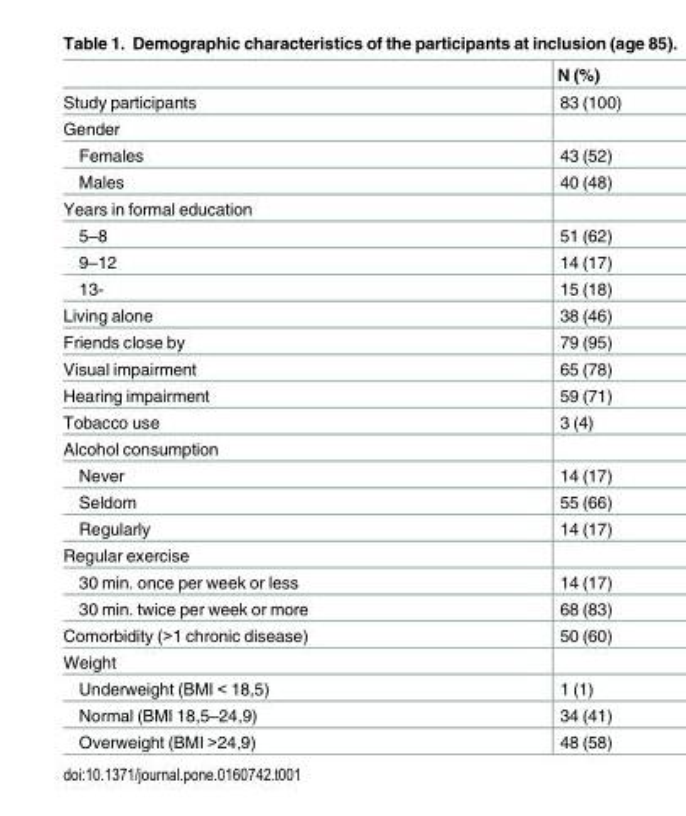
<table><thead><tr><td></td><td>N (%)</td></tr></thead><tbody><tr><td>Study participants</td><td>83 (100)</td></tr><tr><td colspan="2">Gender</td></tr><tr><td>Females</td><td>43 (52)</td></tr><tr><td>Males</td><td>40 (48)</td></tr><tr><td colspan="2">Years in formal education</td></tr><tr><td>5–8</td><td>51 (62)</td></tr><tr><td>9–12</td><td>14 (17)</td></tr><tr><td>13-</td><td>15 (18)</td></tr><tr><td>Living alone</td><td>38 (46)</td></tr><tr><td>Friends close by</td><td>79 (95)</td></tr><tr><td>Visual impairment</td><td>65 (78)</td></tr><tr><td>Hearing impairment</td><td>59 (71)</td></tr><tr><td>Tobacco use</td><td>3 (4)</td></tr><tr><td colspan="2">Alcohol consumption</td></tr><tr><td>Never</td><td>14 (17)</td></tr><tr><td>Seldom</td><td>55 (66)</td></tr><tr><td>Regularly</td><td>14 (17)</td></tr><tr><td colspan="2">Regular exercise</td></tr><tr><td>30 min. once per week or less</td><td>14 (17)</td></tr><tr><td>30 min. twice per week or more</td><td>68 (83)</td></tr><tr><td>Comorbidity (&gt;1 chronic disease)</td><td>50 (60)</td></tr><tr><td colspan="2">Weight</td></tr><tr><td>Underweight (BMI &lt; 18,5)</td><td>1 (1)</td></tr><tr><td>Normal (BMI 18,5–24,9)</td><td>34 (41)</td></tr><tr><td>Overweight (BMI &gt;24,9)</td><td>48 (58)</td></tr></tbody></table>